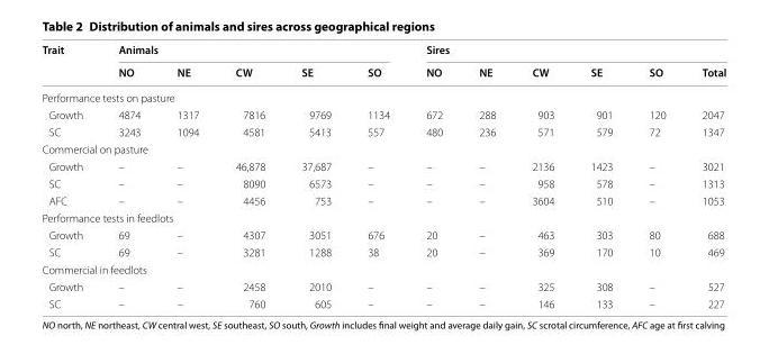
<table><thead><tr><td rowspan="2">Trait</td><td colspan="5">Animals</td><td colspan="6">Sires</td></tr><tr><td>NO</td><td>NE</td><td>CW</td><td>SE</td><td>SO</td><td>NO</td><td>NE</td><td>CW</td><td>SE</td><td>SO</td><td>Total</td></tr></thead><tbody><tr><td colspan="12">Performance tests on pasture</td></tr><tr><td>Growth</td><td>4874</td><td>1317</td><td>7816</td><td>9769</td><td>1134</td><td>672</td><td>288</td><td>903</td><td>901</td><td>120</td><td>2047</td></tr><tr><td>SC</td><td>3243</td><td>1094</td><td>4581</td><td>5413</td><td>557</td><td>480</td><td>236</td><td>571</td><td>579</td><td>72</td><td>1347</td></tr><tr><td colspan="12">Commercial on pasture</td></tr><tr><td>Growth</td><td>–</td><td>–</td><td>46,878</td><td>37,687</td><td>–</td><td>–</td><td>–</td><td>2136</td><td>1423</td><td>–</td><td>3021</td></tr><tr><td>SC</td><td>–</td><td>–</td><td>8090</td><td>6573</td><td>–</td><td>–</td><td>–</td><td>958</td><td>578</td><td>–</td><td>1313</td></tr><tr><td>AFC</td><td>–</td><td>–</td><td>4456</td><td>753</td><td>–</td><td>–</td><td>–</td><td>3604</td><td>510</td><td>–</td><td>1053</td></tr><tr><td colspan="12">Performance tests in feedlots</td></tr><tr><td>Growth</td><td>69</td><td>–</td><td>4307</td><td>3051</td><td>676</td><td>20</td><td>–</td><td>463</td><td>303</td><td>80</td><td>688</td></tr><tr><td>SC</td><td>69</td><td>–</td><td>3281</td><td>1288</td><td>38</td><td>20</td><td>–</td><td>369</td><td>170</td><td>10</td><td>469</td></tr><tr><td colspan="12">Commercial in feedlots</td></tr><tr><td>Growth</td><td>–</td><td>–</td><td>2458</td><td>2010</td><td>–</td><td>–</td><td>–</td><td>325</td><td>308</td><td>–</td><td>527</td></tr><tr><td>SC</td><td>–</td><td>–</td><td>760</td><td>605</td><td>–</td><td>–</td><td>–</td><td>146</td><td>133</td><td>–</td><td>227</td></tr></tbody></table>